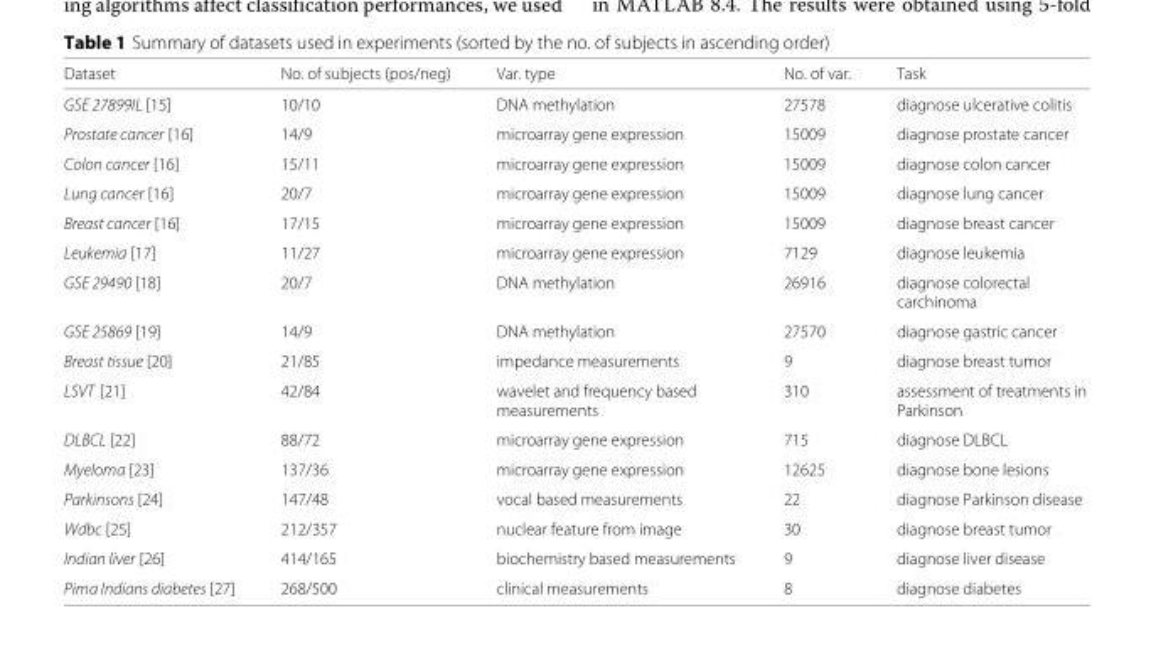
<table><thead><tr><td>Dataset</td><td>No. of subjects (pos/neg)</td><td>Var. type</td><td>No. of var.</td><td>Task</td></tr></thead><tbody><tr><td>GSE 27899IL [15]</td><td>10/10</td><td>DNA methylation</td><td>27578</td><td>diagnose ulcerative colitis</td></tr><tr><td>Prostate cancer [16]</td><td>14/9</td><td>microarray gene expression</td><td>15009</td><td>diagnose prostate cancer</td></tr><tr><td>Colon cancer [16]</td><td>15/11</td><td>microarray gene expression</td><td>15009</td><td>diagnose colon cancer</td></tr><tr><td>Lung cancer [16]</td><td>20/7</td><td>microarray gene expression</td><td>15009</td><td>diagnose lung cancer</td></tr><tr><td>Breast cancer [16]</td><td>17/15</td><td>microarray gene expression</td><td>15009</td><td>diagnose breast cancer</td></tr><tr><td>Leukemia [17]</td><td>11/27</td><td>microarray gene expression</td><td>7129</td><td>diagnose leukemia</td></tr><tr><td>GSE 29490 [18]</td><td>20/7</td><td>DNA methylation</td><td>26916</td><td>diagnose colorectal carchinoma</td></tr><tr><td>GSE 25869 [19]</td><td>14/9</td><td>DNA methylation</td><td>27570</td><td>diagnose gastric cancer</td></tr><tr><td>Breast tissue [20]</td><td>21/85</td><td>impedance measurements</td><td>9</td><td>diagnose breast tumor</td></tr><tr><td>LSVT [21]</td><td>42/84</td><td>wavelet and frequency based measurements</td><td>310</td><td>assessment of treatments in Parkinson</td></tr><tr><td>DLBCL [22]</td><td>88/72</td><td>microarray gene expression</td><td>715</td><td>diagnose DLBCL</td></tr><tr><td>Myeloma [23]</td><td>137/36</td><td>microarray gene expression</td><td>12625</td><td>diagnose bone lesions</td></tr><tr><td>Parkinsons [24]</td><td>147/48</td><td>vocal based measurements</td><td>22</td><td>diagnose Parkinson disease</td></tr><tr><td>Wdbc [25]</td><td>212/357</td><td>nuclear feature from image</td><td>30</td><td>diagnose breast tumor</td></tr><tr><td>Indian liver [26]</td><td>414/165</td><td>biochemistry based measurements</td><td>9</td><td>diagnose liver disease</td></tr><tr><td>Pima Indians diabetes [27]</td><td>268/500</td><td>clinical measurements</td><td>8</td><td>diagnose diabetes</td></tr></tbody></table>